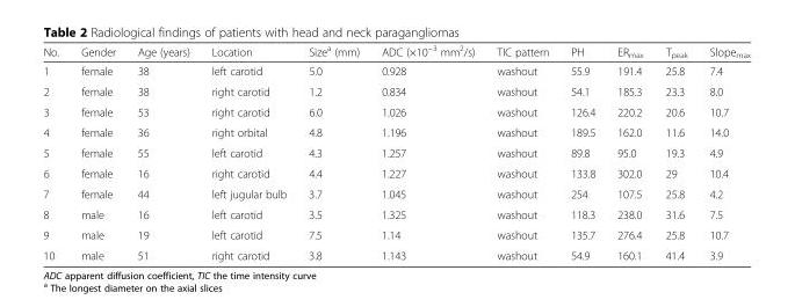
<table><thead><tr><td>No.</td><td>Gender</td><td>Age (years)</td><td>Location</td><td>Size<sup>a</sup> (mm)</td><td>ADC (×10<sup>−3</sup> mm<sup>2</sup>/s)</td><td>TIC pattern</td><td>PH</td><td>ER<sub>max</sub></td><td>T<sub>peak</sub></td><td>Slope<sub>max</sub></td></tr></thead><tbody><tr><td>1</td><td>female</td><td>38</td><td>left carotid</td><td>5.0</td><td>0.928</td><td>washout</td><td>55.9</td><td>191.4</td><td>25.8</td><td>7.4</td></tr><tr><td>2</td><td>female</td><td>38</td><td>right carotid</td><td>1.2</td><td>0.834</td><td>washout</td><td>54.1</td><td>185.3</td><td>23.3</td><td>8.0</td></tr><tr><td>3</td><td>female</td><td>53</td><td>right carotid</td><td>6.0</td><td>1.026</td><td>washout</td><td>126.4</td><td>220.2</td><td>20.6</td><td>10.7</td></tr><tr><td>4</td><td>female</td><td>36</td><td>right orbital</td><td>4.8</td><td>1.196</td><td>washout</td><td>189.5</td><td>162.0</td><td>11.6</td><td>14.0</td></tr><tr><td>5</td><td>female</td><td>55</td><td>left carotid</td><td>4.3</td><td>1.257</td><td>washout</td><td>89.8</td><td>95.0</td><td>19.3</td><td>4.9</td></tr><tr><td>6</td><td>female</td><td>16</td><td>right carotid</td><td>4.4</td><td>1.227</td><td>washout</td><td>133.8</td><td>302.0</td><td>29</td><td>10.4</td></tr><tr><td>7</td><td>female</td><td>44</td><td>left jugular bulb</td><td>3.7</td><td>1.045</td><td>washout</td><td>254</td><td>107.5</td><td>25.8</td><td>4.2</td></tr><tr><td>8</td><td>male</td><td>16</td><td>left carotid</td><td>3.5</td><td>1.325</td><td>washout</td><td>118.3</td><td>238.0</td><td>31.6</td><td>7.5</td></tr><tr><td>9</td><td>male</td><td>19</td><td>left carotid</td><td>7.5</td><td>1.14</td><td>washout</td><td>135.7</td><td>276.4</td><td>25.8</td><td>10.7</td></tr><tr><td>10</td><td>male</td><td>51</td><td>right carotid</td><td>3.8</td><td>1.143</td><td>washout</td><td>54.9</td><td>160.1</td><td>41.4</td><td>3.9</td></tr></tbody></table>